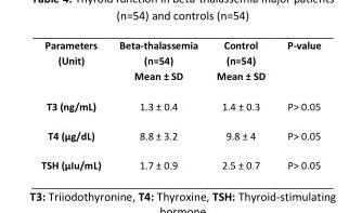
<table><tbody><tr><td>Parameters (Unit)</td><td>Beta-thalassemia (n=54) Mean ± SD</td><td>Control (n=54) Mean ± SD</td><td>P-value</td></tr><tr><td>T3 (ng/mL)</td><td>1.3 ± 0.4</td><td>1.4 ± 0.3</td><td>P&gt; 0.05</td></tr><tr><td>T4 (µg/dL)</td><td>8.8 ± 3.2</td><td>9.8 ± 4</td><td>P&gt; 0.05</td></tr><tr><td>TSH (µIu/mL)</td><td>1.7 ± 0.9</td><td>2.5 ± 0.7</td><td>P&gt; 0.05</td></tr></tbody></table>